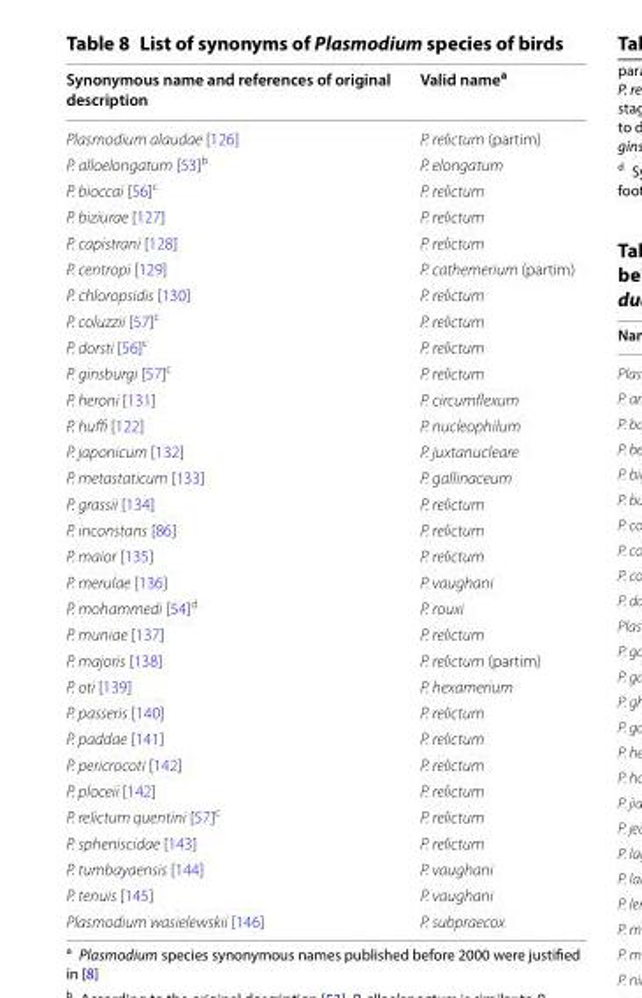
<table><thead><tr><td>Synonymous name and references of original description</td><td>Valid name<sup>a</sup></td></tr></thead><tbody><tr><td>Plasmodium alaudae [126]</td><td>P. relictum (partim)</td></tr><tr><td>P. alloelongatum [53]<sup>b</sup></td><td>P. elongatum</td></tr><tr><td>P. bioccai [56]<sup>c</sup></td><td>P. relictum</td></tr><tr><td>P. biziurae [127]</td><td>P. relictum</td></tr><tr><td>P. capistrani [128]</td><td>P. relictum</td></tr><tr><td>P. centropi [129]</td><td>P. cathemerium (partim)</td></tr><tr><td>P. chloropsidis [130]</td><td>P. relictum</td></tr><tr><td>P. coluzzii [57]<sup>c</sup></td><td>P. relictum</td></tr><tr><td>P. dorsti [56]<sup>c</sup></td><td>P. relictum</td></tr><tr><td>P. ginsburgi [57]<sup>c</sup></td><td>P. relictum</td></tr><tr><td>P. heroni [131]</td><td>P. circumflexum</td></tr><tr><td>P. huffi [122]</td><td>P. nucleophilum</td></tr><tr><td>P. japonicum [132]</td><td>P. juxtanucleare</td></tr><tr><td>P. metastaticum [133]</td><td>P. gallinaceum</td></tr><tr><td>P. grassii [134]</td><td>P. relictum</td></tr><tr><td>P. inconstans [86]</td><td>P. relictum</td></tr><tr><td>P. maior [135]</td><td>P. relictum</td></tr><tr><td>P. merulae [136]</td><td>P. vaughani</td></tr><tr><td>P. mohammedi [54]<sup>d</sup></td><td>P. rouxi</td></tr><tr><td>P. muniae [137]</td><td>P. relictum</td></tr><tr><td>P. majoris [138]</td><td>P. relictum (partim)</td></tr><tr><td>P. oti [139]</td><td>P. hexamerium</td></tr><tr><td>P. passeris [140]</td><td>P. relictum</td></tr><tr><td>P. paddae [141]</td><td>P. relictum</td></tr><tr><td>P. pericrocoti [142]</td><td>P. relictum</td></tr><tr><td>P. ploceii [142]</td><td>P. relictum</td></tr><tr><td>P. relictum quentini [57]<sup>c</sup></td><td>P. relictum</td></tr><tr><td>P. spheniscidae [143]</td><td>P. relictum</td></tr><tr><td>P. tumbayaensis [144]</td><td>P. vaughani</td></tr><tr><td>P. tenuis [145]</td><td>P. vaughani</td></tr><tr><td>Plasmodium wasielewskii [146]</td><td>P. subpraecox</td></tr></tbody></table>